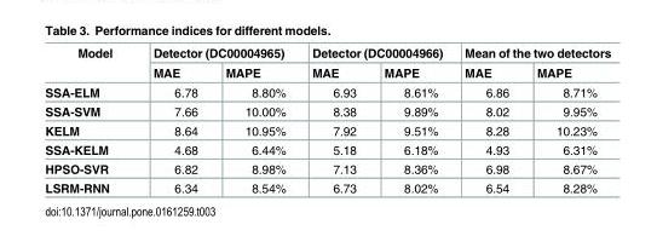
<table><thead><tr><td rowspan="2">Model</td><td colspan="2">Detector (DC00004965)</td><td colspan="2">Detector (DC00004966)</td><td colspan="2">Mean of the two detectors</td></tr><tr><td>MAE</td><td>MAPE</td><td>MAE</td><td>MAPE</td><td>MAE</td><td>MAPE</td></tr></thead><tbody><tr><td>SSA-ELM</td><td>6.78</td><td>8.80%</td><td>6.93</td><td>8.61%</td><td>6.86</td><td>8.71%</td></tr><tr><td>SSA-SVM</td><td>7.66</td><td>10.00%</td><td>8.38</td><td>9.89%</td><td>8.02</td><td>9.95%</td></tr><tr><td>KELM</td><td>8.64</td><td>10.95%</td><td>7.92</td><td>9.51%</td><td>8.28</td><td>10.23%</td></tr><tr><td>SSA-KELM</td><td>4.68</td><td>6.44%</td><td>5.18</td><td>6.18%</td><td>4.93</td><td>6.31%</td></tr><tr><td>HPSO-SVR</td><td>6.82</td><td>8.98%</td><td>7.13</td><td>8.36%</td><td>6.98</td><td>8.67%</td></tr><tr><td>LSRM-RNN</td><td>6.34</td><td>8.54%</td><td>6.73</td><td>8.02%</td><td>6.54</td><td>8.28%</td></tr></tbody></table>